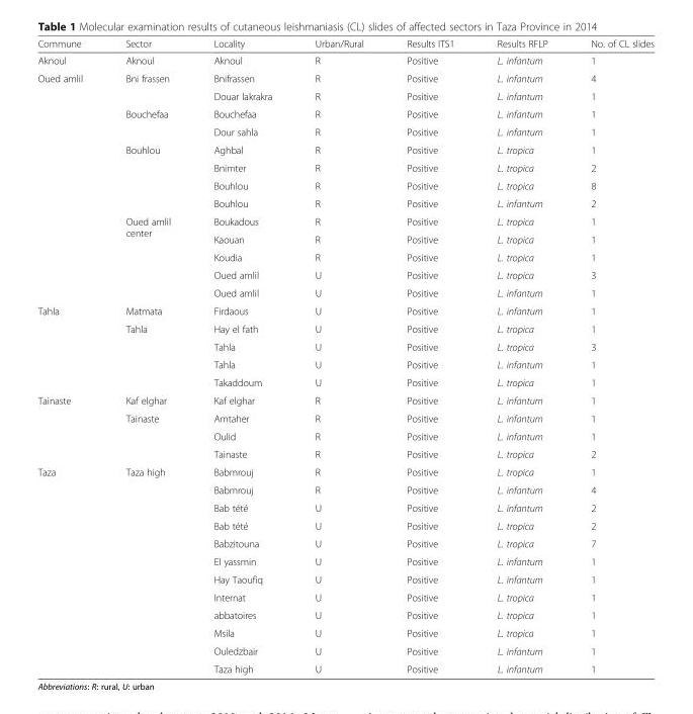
<table><thead><tr><td>Commune</td><td>Sector</td><td>Locality</td><td>Urban/Rural</td><td>Results ITS1</td><td>Results RFLP</td><td>No. of CL slides</td></tr></thead><tbody><tr><td>Aknoul</td><td>Aknoul</td><td>Aknoul</td><td>R</td><td>Positive</td><td>L. infantum</td><td>1</td></tr><tr><td rowspan="13">Oued amlil</td><td rowspan="2">Bni frassen</td><td>Bnifrassen</td><td>R</td><td>Positive</td><td>L. infantum</td><td>4</td></tr><tr><td>Douar lakrakra</td><td>R</td><td>Positive</td><td>L. infantum</td><td>1</td></tr><tr><td rowspan="2">Bouchefaa</td><td>Bouchefaa</td><td>R</td><td>Positive</td><td>L. infantum</td><td>1</td></tr><tr><td>Dour sahla</td><td>R</td><td>Positive</td><td>L. infantum</td><td>1</td></tr><tr><td rowspan="4">Bouhlou</td><td>Aghbal</td><td>R</td><td>Positive</td><td>L. tropica</td><td>1</td></tr><tr><td>Bnimter</td><td>R</td><td>Positive</td><td>L. tropica</td><td>2</td></tr><tr><td>Bouhlou</td><td>R</td><td>Positive</td><td>L. tropica</td><td>8</td></tr><tr><td>Bouhlou</td><td>R</td><td>Positive</td><td>L. infantum</td><td>2</td></tr><tr><td rowspan="5">Oued amlil center</td><td>Boukadous</td><td>R</td><td>Positive</td><td>L. tropica</td><td>1</td></tr><tr><td>Kaouan</td><td>R</td><td>Positive</td><td>L. tropica</td><td>1</td></tr><tr><td>Koudia</td><td>R</td><td>Positive</td><td>L. tropica</td><td>1</td></tr><tr><td>Oued amlil</td><td>U</td><td>Positive</td><td>L. tropica</td><td>3</td></tr><tr><td>Oued amlil</td><td>U</td><td>Positive</td><td>L. infantum</td><td>1</td></tr><tr><td rowspan="5">Tahla</td><td>Matmata</td><td>Firdaous</td><td>U</td><td>Positive</td><td>L. infantum</td><td>1</td></tr><tr><td rowspan="4">Tahla</td><td>Hay el fath</td><td>U</td><td>Positive</td><td>L. tropica</td><td>1</td></tr><tr><td>Tahla</td><td>U</td><td>Positive</td><td>L. tropica</td><td>3</td></tr><tr><td>Tahla</td><td>U</td><td>Positive</td><td>L. infantum</td><td>1</td></tr><tr><td>Takaddoum</td><td>U</td><td>Positive</td><td>L. tropica</td><td>1</td></tr><tr><td rowspan="4">Tainaste</td><td>Kaf elghar</td><td>Kaf elghar</td><td>R</td><td>Positive</td><td>L. infantum</td><td>1</td></tr><tr><td rowspan="3">Tainaste</td><td>Amtaher</td><td>R</td><td>Positive</td><td>L. infantum</td><td>1</td></tr><tr><td>Oulid</td><td>R</td><td>Positive</td><td>L. infantum</td><td>1</td></tr><tr><td>Tainaste</td><td>R</td><td>Positive</td><td>L. tropica</td><td>2</td></tr><tr><td rowspan="12">Taza</td><td rowspan="12">Taza high</td><td>Babmrouj</td><td>R</td><td>Positive</td><td>L. tropica</td><td>1</td></tr><tr><td>Babmrouj</td><td>R</td><td>Positive</td><td>L. infantum</td><td>4</td></tr><tr><td>Bab tété</td><td>U</td><td>Positive</td><td>L. infantum</td><td>2</td></tr><tr><td>Bab tété</td><td>U</td><td>Positive</td><td>L. tropica</td><td>2</td></tr><tr><td>Babzitouna</td><td>U</td><td>Positive</td><td>L. tropica</td><td>7</td></tr><tr><td>El yassmin</td><td>U</td><td>Positive</td><td>L. infantum</td><td>1</td></tr><tr><td>Hay Taoufiq</td><td>U</td><td>Positive</td><td>L. infantum</td><td>1</td></tr><tr><td>Internat</td><td>U</td><td>Positive</td><td>L. tropica</td><td>1</td></tr><tr><td>abbatoires</td><td>U</td><td>Positive</td><td>L. tropica</td><td>1</td></tr><tr><td>Msila</td><td>U</td><td>Positive</td><td>L. tropica</td><td>1</td></tr><tr><td>Ouledzbair</td><td>U</td><td>Positive</td><td>L. infantum</td><td>1</td></tr><tr><td>Taza high</td><td>U</td><td>Positive</td><td>L. infantum</td><td>1</td></tr></tbody></table>